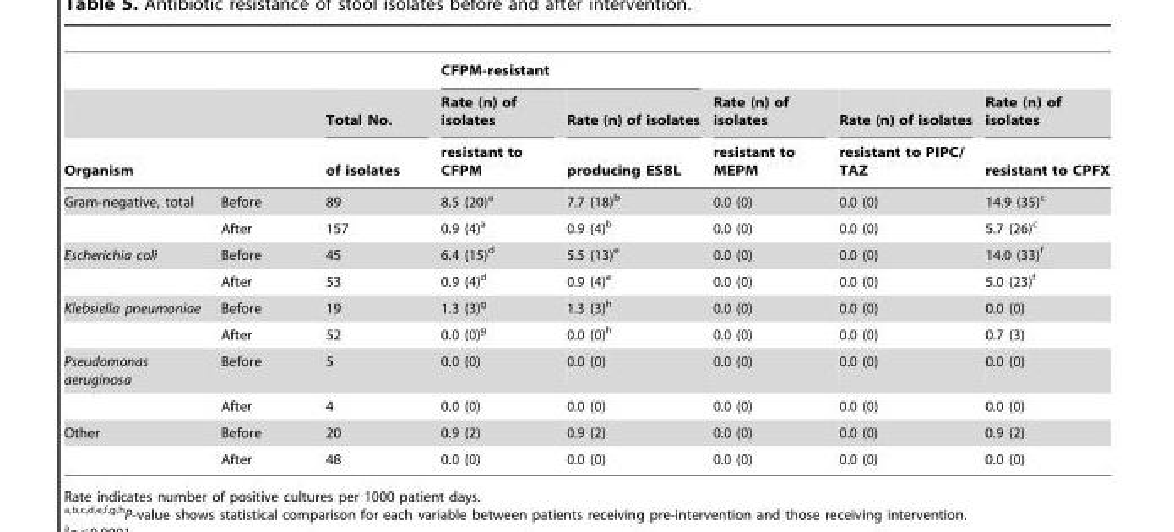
<table><thead><tr><td rowspan="3">Organism</td><td rowspan="3"></td><td rowspan="3">Total No. of isolates</td><td colspan="2">CFPM-resistant</td><td rowspan="3">Rate (n) of isolates resistant to MEPM</td><td rowspan="3">Rate (n) of isolates resistant to PIPC/ TAZ</td><td rowspan="3">Rate (n) of isolates resistant to CPFX</td></tr><tr><td rowspan="2">Rate (n) of isolates resistant to CFPM</td><td rowspan="2">Rate (n) of isolates producing ESBL</td></tr><tr></tr></thead><tbody><tr><td rowspan="2">Gram-negative, total</td><td>Before</td><td>89</td><td>8.5 (20)<sup>a</sup></td><td>7.7 (18)<sup>b</sup></td><td>0.0 (0)</td><td>0.0 (0)</td><td>14.9 (35)<sup>c</sup></td></tr><tr><td>After</td><td>157</td><td>0.9 (4)<sup>a</sup></td><td>0.9 (4)<sup>b</sup></td><td>0.0 (0)</td><td>0.0 (0)</td><td>5.7 (26)<sup>c</sup></td></tr><tr><td rowspan="2">Escherichia coli</td><td>Before</td><td>45</td><td>6.4 (15)<sup>d</sup></td><td>5.5 (13)<sup>e</sup></td><td>0.0 (0)</td><td>0.0 (0)</td><td>14.0 (33)<sup>f</sup></td></tr><tr><td>After</td><td>53</td><td>0.9 (4)<sup>d</sup></td><td>0.9 (4)<sup>e</sup></td><td>0.0 (0)</td><td>0.0 (0)</td><td>5.0 (23)<sup>f</sup></td></tr><tr><td rowspan="2">Klebsiella pneumoniae</td><td>Before</td><td>19</td><td>1.3 (3)<sup>g</sup></td><td>1.3 (3)<sup>h</sup></td><td>0.0 (0)</td><td>0.0 (0)</td><td>0.0 (0)</td></tr><tr><td>After</td><td>52</td><td>0.0 (0)<sup>g</sup></td><td>0.0 (0)<sup>h</sup></td><td>0.0 (0)</td><td>0.0 (0)</td><td>0.7 (3)</td></tr><tr><td rowspan="2">Pseudomonas aeruginosa</td><td>Before</td><td>5</td><td>0.0 (0)</td><td>0.0 (0)</td><td>0.0 (0)</td><td>0.0 (0)</td><td>0.0 (0)</td></tr><tr><td>After</td><td>4</td><td>0.0 (0)</td><td>0.0 (0)</td><td>0.0 (0)</td><td>0.0 (0)</td><td>0.0 (0)</td></tr><tr><td rowspan="2">Other</td><td>Before</td><td>20</td><td>0.9 (2)</td><td>0.9 (2)</td><td>0.0 (0)</td><td>0.0 (0)</td><td>0.9 (2)</td></tr><tr><td>After</td><td>48</td><td>0.0 (0)</td><td>0.0 (0)</td><td>0.0 (0)</td><td>0.0 (0)</td><td>0.0 (0)</td></tr></tbody></table>